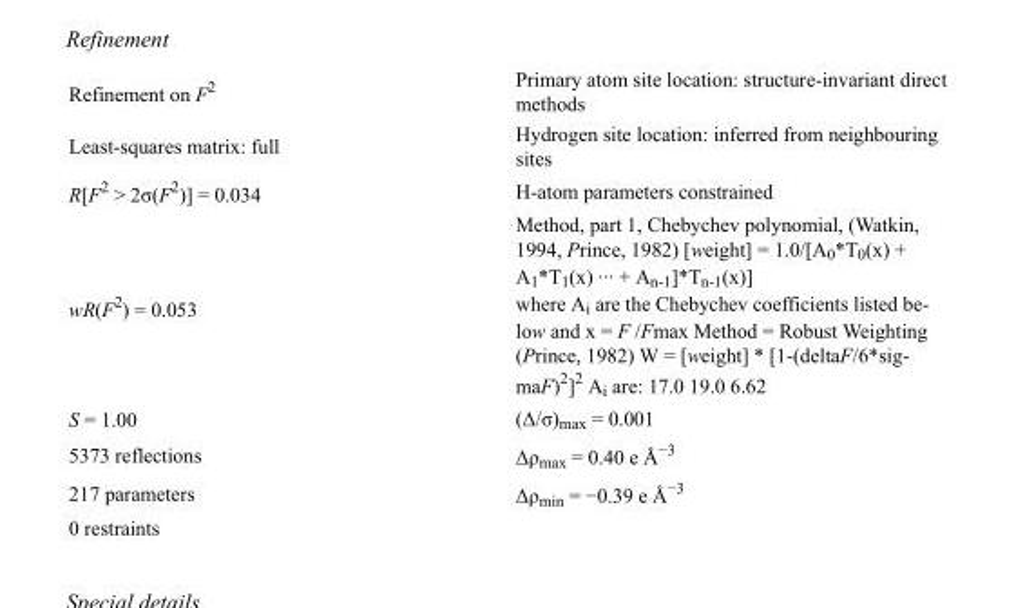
<table><tbody><tr><td>Refinement on F<sup>2</sup></td><td>Primary atom site location: structure-invariant direct methods</td></tr><tr><td>Least-squares matrix: full</td><td>Hydrogen site location: inferred from neighbouring sites</td></tr><tr><td>R[F<sup>2</sup> &gt; 2σ(F<sup>2</sup>)] = 0.034</td><td>H-atom parameters constrained</td></tr><tr><td>wR(F<sup>2</sup>) = 0.053</td><td>Method, part 1, Chebychev polynomial, (Watkin, 1994, Prince, 1982) [weight] = 1.0/[A0*T0(x) + A1*T1(x) ··· + An-1]*Tn-1(x)] where Ai are the Chebychev coefficients listed be- low and x = F /Fmax Method = Robust Weighting (Prince, 1982) W = [weight] * [1-(deltaF/6*sig- maF)2]2 Ai are: 17.0 19.0 6.62</td></tr><tr><td>S = 1.00</td><td>(Δ/σ)<sub>max</sub> = 0.001</td></tr><tr><td>5373 reflections</td><td>Δρ<sub>max</sub> = 0.40 e Å<sup>−3</sup></td></tr><tr><td>217 parameters</td><td>Δρ<sub>min</sub> = −0.39 e Å<sup>−3</sup></td></tr><tr><td>0 restraints</td><td></td></tr></tbody></table>